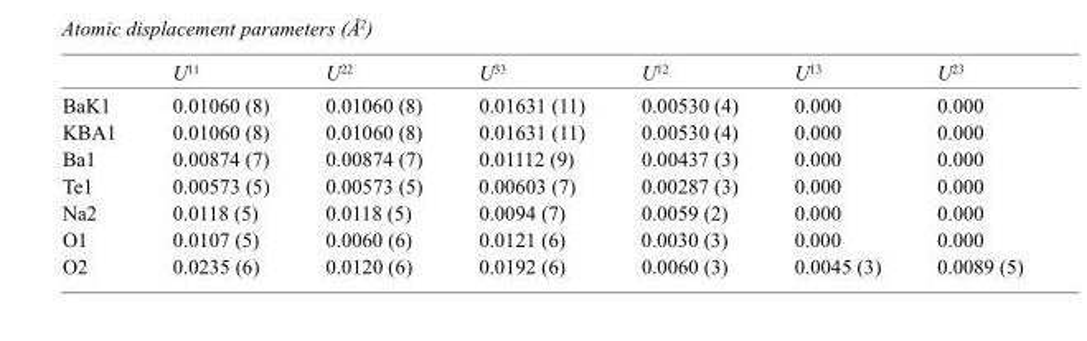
<table><thead><tr><td></td><td>U<sup>11</sup></td><td>U<sup>22</sup></td><td>U<sup>33</sup></td><td>U<sup>12</sup></td><td>U<sup>13</sup></td><td>U<sup>23</sup></td></tr></thead><tbody><tr><td>BaK1</td><td>0.01060 (8)</td><td>0.01060 (8)</td><td>0.01631 (11)</td><td>0.00530 (4)</td><td>0.000</td><td>0.000</td></tr><tr><td>KBA1</td><td>0.01060 (8)</td><td>0.01060 (8)</td><td>0.01631 (11)</td><td>0.00530 (4)</td><td>0.000</td><td>0.000</td></tr><tr><td>Ba1</td><td>0.00874 (7)</td><td>0.00874 (7)</td><td>0.01112 (9)</td><td>0.00437 (3)</td><td>0.000</td><td>0.000</td></tr><tr><td>Te1</td><td>0.00573 (5)</td><td>0.00573 (5)</td><td>0.00603 (7)</td><td>0.00287 (3)</td><td>0.000</td><td>0.000</td></tr><tr><td>Na2</td><td>0.0118 (5)</td><td>0.0118 (5)</td><td>0.0094 (7)</td><td>0.0059 (2)</td><td>0.000</td><td>0.000</td></tr><tr><td>O1</td><td>0.0107 (5)</td><td>0.0060 (6)</td><td>0.0121 (6)</td><td>0.0030 (3)</td><td>0.000</td><td>0.000</td></tr><tr><td>O2</td><td>0.0235 (6)</td><td>0.0120 (6)</td><td>0.0192 (6)</td><td>0.0060 (3)</td><td>0.0045 (3)</td><td>0.0089 (5)</td></tr></tbody></table>